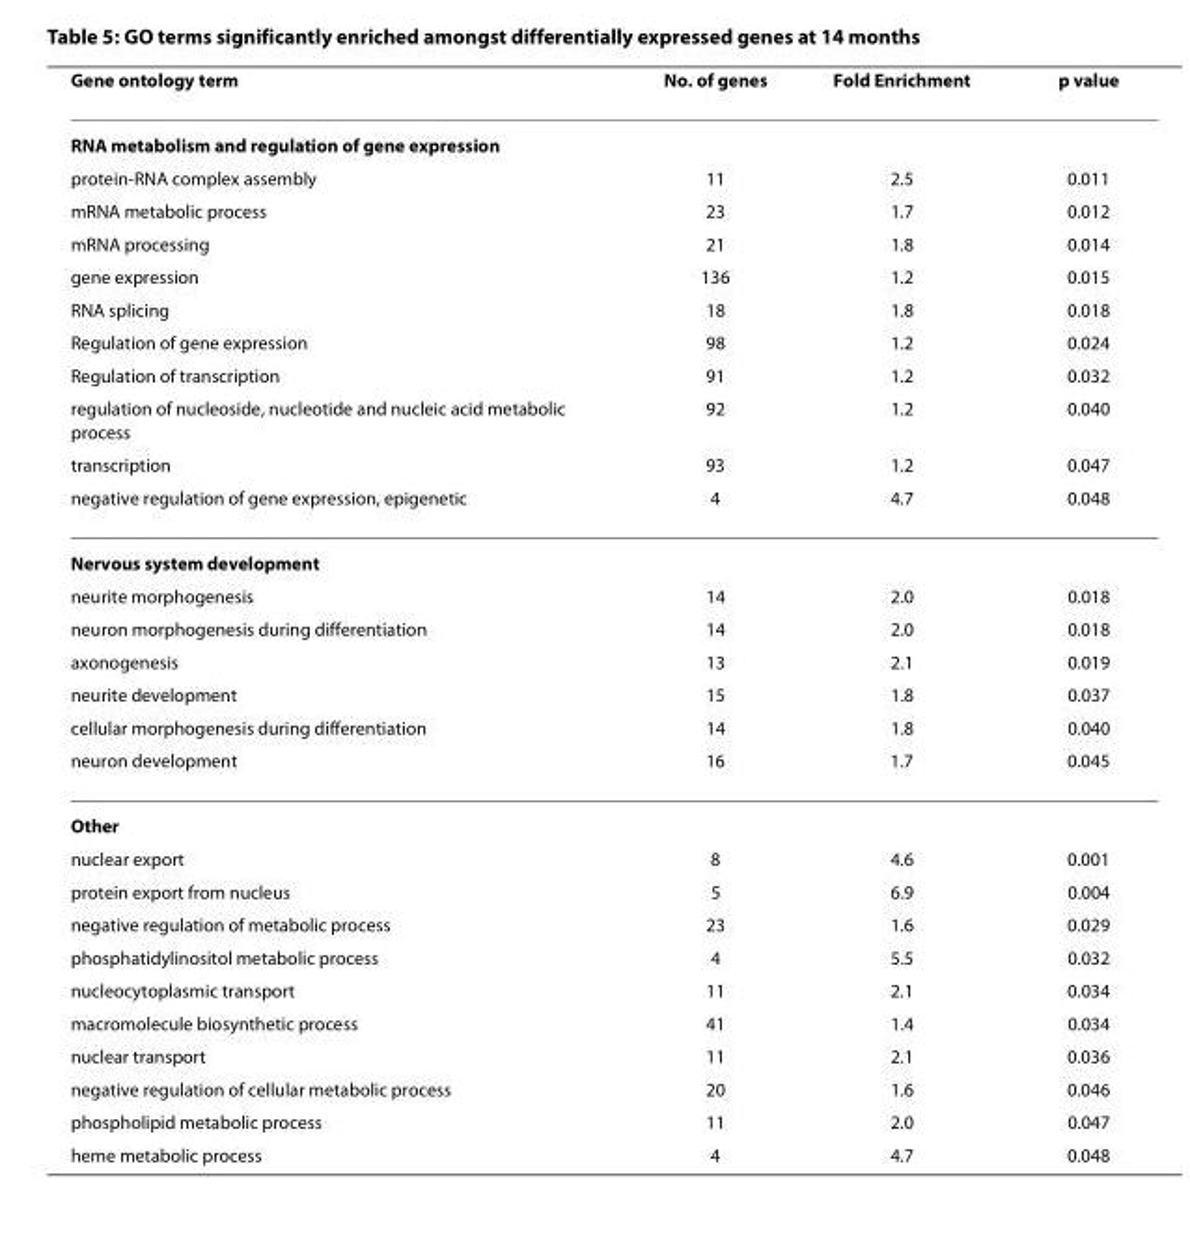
<table><thead><tr><td>Gene ontology term</td><td>No. of genes</td><td>Fold Enrichment</td><td>p value</td></tr></thead><tbody><tr><td colspan="4">RNA metabolism and regulation of gene expression</td></tr><tr><td>protein-RNA complex assembly</td><td>11</td><td>2.5</td><td>0.011</td></tr><tr><td>mRNA metabolic process</td><td>23</td><td>1.7</td><td>0.012</td></tr><tr><td>mRNA processing</td><td>21</td><td>1.8</td><td>0.014</td></tr><tr><td>gene expression</td><td>136</td><td>1.2</td><td>0.015</td></tr><tr><td>RNA splicing</td><td>18</td><td>1.8</td><td>0.018</td></tr><tr><td>Regulation of gene expression</td><td>98</td><td>1.2</td><td>0.024</td></tr><tr><td>Regulation of transcription</td><td>91</td><td>1.2</td><td>0.032</td></tr><tr><td>regulation of nucleoside, nucleotide and nucleic acid metabolic process</td><td>92</td><td>1.2</td><td>0.040</td></tr><tr><td>transcription</td><td>93</td><td>1.2</td><td>0.047</td></tr><tr><td>negative regulation of gene expression, epigenetic</td><td>4</td><td>4.7</td><td>0.048</td></tr><tr><td colspan="4">Nervous system development</td></tr><tr><td>neurite morphogenesis</td><td>14</td><td>2.0</td><td>0.018</td></tr><tr><td>neuron morphogenesis during differentiation</td><td>14</td><td>2.0</td><td>0.018</td></tr><tr><td>axonogenesis</td><td>13</td><td>2.1</td><td>0.019</td></tr><tr><td>neurite development</td><td>15</td><td>1.8</td><td>0.037</td></tr><tr><td>cellular morphogenesis during differentiation</td><td>14</td><td>1.8</td><td>0.040</td></tr><tr><td>neuron development</td><td>16</td><td>1.7</td><td>0.045</td></tr><tr><td colspan="4">Other</td></tr><tr><td>nuclear export</td><td>8</td><td>4.6</td><td>0.001</td></tr><tr><td>protein export from nucleus</td><td>5</td><td>6.9</td><td>0.004</td></tr><tr><td>negative regulation of metabolic process</td><td>23</td><td>1.6</td><td>0.029</td></tr><tr><td>phosphatidylinositol metabolic process</td><td>4</td><td>5.5</td><td>0.032</td></tr><tr><td>nucleocytoplasmic transport</td><td>11</td><td>2.1</td><td>0.034</td></tr><tr><td>macromolecule biosynthetic process</td><td>41</td><td>1.4</td><td>0.034</td></tr><tr><td>nuclear transport</td><td>11</td><td>2.1</td><td>0.036</td></tr><tr><td>negative regulation of cellular metabolic process</td><td>20</td><td>1.6</td><td>0.046</td></tr><tr><td>phospholipid metabolic process</td><td>11</td><td>2.0</td><td>0.047</td></tr><tr><td>heme metabolic process</td><td>4</td><td>4.7</td><td>0.048</td></tr></tbody></table>